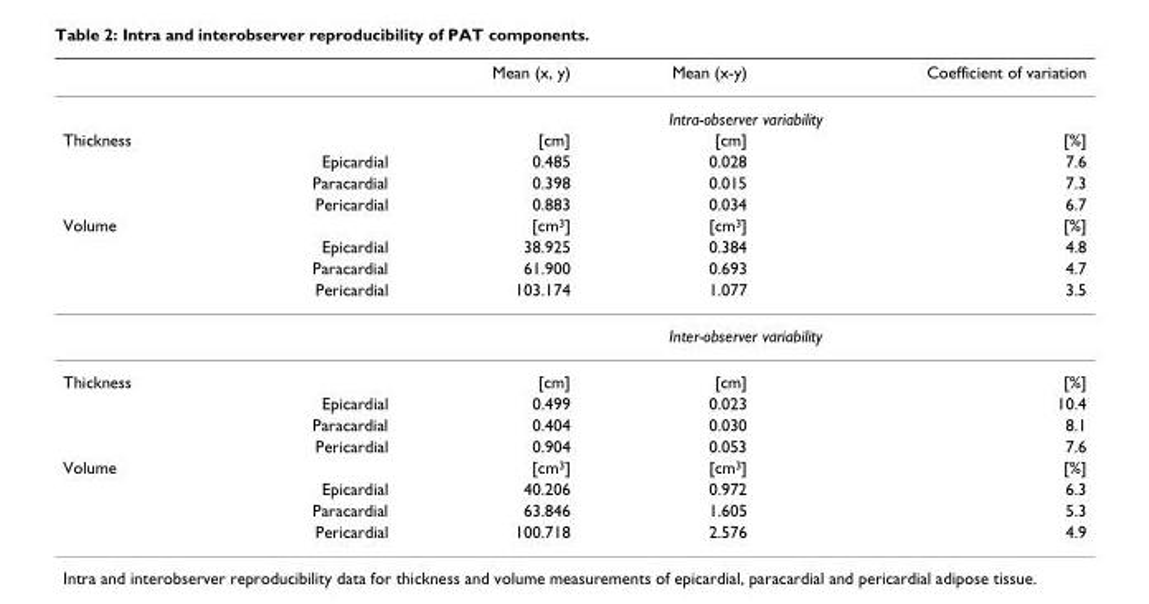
<table><thead><tr><td></td><td></td><td>Mean (x, y)</td><td>Mean (x-y)</td><td>Coefficient of variation</td></tr></thead><tbody><tr><td></td><td></td><td colspan="3">Intra-observer variability</td></tr><tr><td rowspan="4">Thickness</td><td></td><td>[cm]</td><td>[cm]</td><td>[%]</td></tr><tr><td>Epicardial</td><td>0.485</td><td>0.028</td><td>7.6</td></tr><tr><td>Paracardial</td><td>0.398</td><td>0.015</td><td>7.3</td></tr><tr><td>Pericardial</td><td>0.883</td><td>0.034</td><td>6.7</td></tr><tr><td rowspan="5">Volume</td><td></td><td>[cm<sup>3</sup>]</td><td>[cm<sup>3</sup>]</td><td>[%]</td></tr><tr><td>Epicardial</td><td>38.925</td><td>0.384</td><td>4.8</td></tr><tr><td>Paracardial</td><td>61.900</td><td>0.693</td><td>4.7</td></tr><tr><td>Pericardial</td><td>103.174</td><td>1.077</td><td>3.5</td></tr><tr><td></td><td colspan="3">Inter-observer variability</td></tr><tr><td rowspan="4">Thickness</td><td></td><td>[cm]</td><td>[cm]</td><td>[%]</td></tr><tr><td>Epicardial</td><td>0.499</td><td>0.023</td><td>10.4</td></tr><tr><td>Paracardial</td><td>0.404</td><td>0.030</td><td>8.1</td></tr><tr><td>Pericardial</td><td>0.904</td><td>0.053</td><td>7.6</td></tr><tr><td rowspan="4">Volume</td><td></td><td>[cm<sup>3</sup>]</td><td>[cm<sup>3</sup>]</td><td>[%]</td></tr><tr><td>Epicardial</td><td>40.206</td><td>0.972</td><td>6.3</td></tr><tr><td>Paracardial</td><td>63.846</td><td>1.605</td><td>5.3</td></tr><tr><td>Pericardial</td><td>100.718</td><td>2.576</td><td>4.9</td></tr></tbody></table>